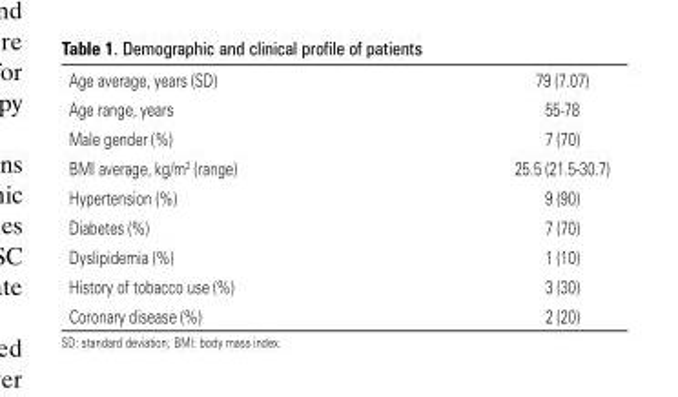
<table><thead><tr><td>Age average, years (SD)</td><td>79 (7.07)</td></tr></thead><tbody><tr><td>Age range, years</td><td>55-78</td></tr><tr><td>Male gender (%)</td><td>7 (70)</td></tr><tr><td>BMI average, kg/m<sup>2</sup> (range)</td><td>25.5 (21.5-30.7)</td></tr><tr><td>Hypertension (%)</td><td>9 (90)</td></tr><tr><td>Diabetes (%)</td><td>7 (70)</td></tr><tr><td>Dyslipidemia (%)</td><td>1 (10)</td></tr><tr><td>History of tobacco use (%)</td><td>3 (30)</td></tr><tr><td>Coronary disease (%)</td><td>2 (20)</td></tr></tbody></table>